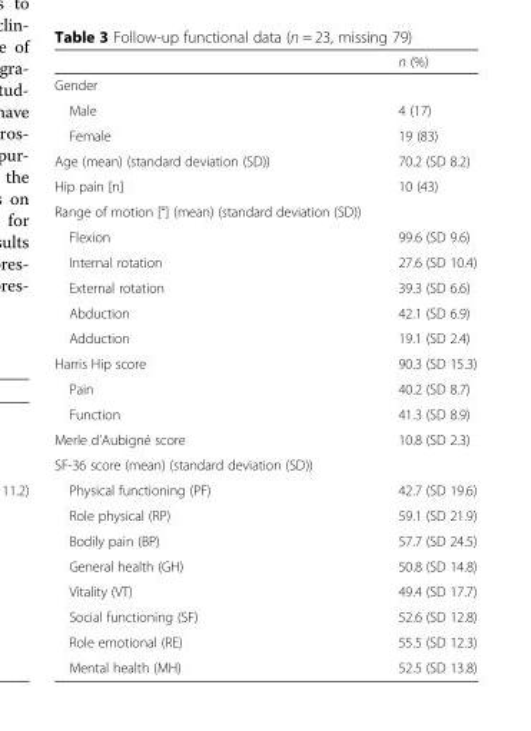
<table><thead><tr><td></td><td>n (%)</td></tr></thead><tbody><tr><td colspan="2">Gender</td></tr><tr><td>Male</td><td>4 (17)</td></tr><tr><td>Female</td><td>19 (83)</td></tr><tr><td>Age (mean) (standard deviation (SD))</td><td>70.2 (SD 8.2)</td></tr><tr><td>Hip pain [n]</td><td>10 (43)</td></tr><tr><td colspan="2">Range of motion [°] (mean) (standard deviation (SD))</td></tr><tr><td>Flexion</td><td>99.6 (SD 9.6)</td></tr><tr><td>Internal rotation</td><td>27.6 (SD 10.4)</td></tr><tr><td>External rotation</td><td>39.3 (SD 6.6)</td></tr><tr><td>Abduction</td><td>42.1 (SD 6.9)</td></tr><tr><td>Adduction</td><td>19.1 (SD 2.4)</td></tr><tr><td>Harris Hip score</td><td>90.3 (SD 15.3)</td></tr><tr><td>Pain</td><td>40.2 (SD 8.7)</td></tr><tr><td>Function</td><td>41.3 (SD 8.9)</td></tr><tr><td>Merle d’Aubigné score</td><td>10.8 (SD 2.3)</td></tr><tr><td colspan="2">SF-36 score (mean) (standard deviation (SD))</td></tr><tr><td>Physical functioning (PF)</td><td>42.7 (SD 19.6)</td></tr><tr><td>Role physical (RP)</td><td>59.1 (SD 21.9)</td></tr><tr><td>Bodily pain (BP)</td><td>57.7 (SD 24.5)</td></tr><tr><td>General health (GH)</td><td>50.8 (SD 14.8)</td></tr><tr><td>Vitality (VT)</td><td>49.4 (SD 17.7)</td></tr><tr><td>Social functioning (SF)</td><td>52.6 (SD 12.8)</td></tr><tr><td>Role emotional (RE)</td><td>55.5 (SD 12.3)</td></tr><tr><td>Mental health (MH)</td><td>52.5 (SD 13.8)</td></tr></tbody></table>